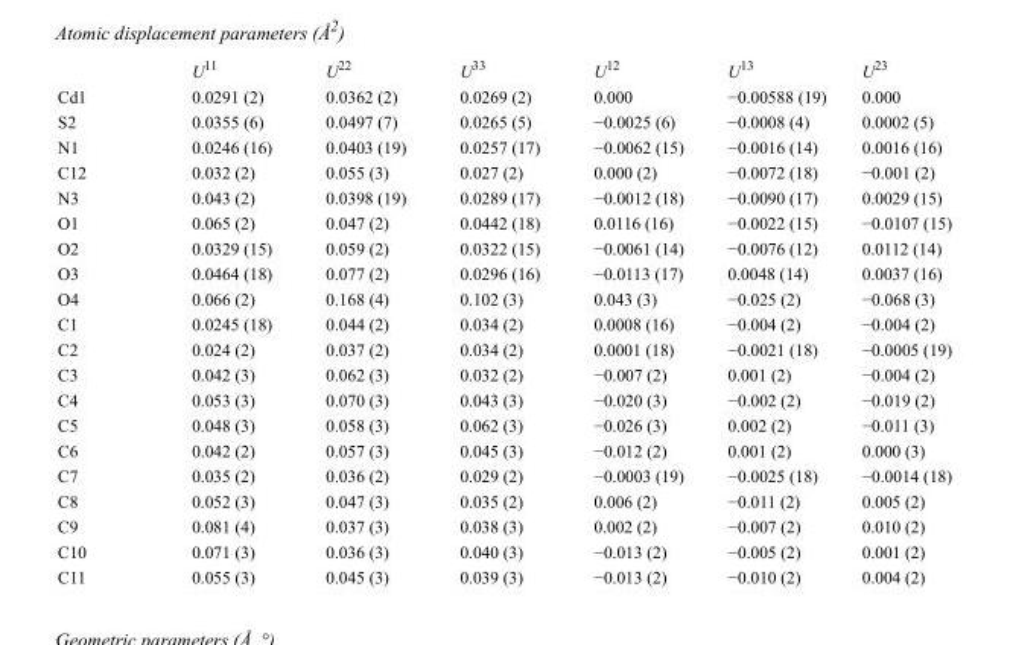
<table><thead><tr><td></td><td>U<sup>11</sup></td><td>U<sup>22</sup></td><td>U<sup>33</sup></td><td>U<sup>12</sup></td><td>U<sup>13</sup></td><td>U<sup>23</sup></td></tr></thead><tbody><tr><td>Cd1</td><td>0.0291 (2)</td><td>0.0362 (2)</td><td>0.0269 (2)</td><td>0.000</td><td>−0.00588 (19)</td><td>0.000</td></tr><tr><td>S2</td><td>0.0355 (6)</td><td>0.0497 (7)</td><td>0.0265 (5)</td><td>−0.0025 (6)</td><td>−0.0008 (4)</td><td>0.0002 (5)</td></tr><tr><td>N1</td><td>0.0246 (16)</td><td>0.0403 (19)</td><td>0.0257 (17)</td><td>−0.0062 (15)</td><td>−0.0016 (14)</td><td>0.0016 (16)</td></tr><tr><td>C12</td><td>0.032 (2)</td><td>0.055 (3)</td><td>0.027 (2)</td><td>0.000 (2)</td><td>−0.0072 (18)</td><td>−0.001 (2)</td></tr><tr><td>N3</td><td>0.043 (2)</td><td>0.0398 (19)</td><td>0.0289 (17)</td><td>−0.0012 (18)</td><td>−0.0090 (17)</td><td>0.0029 (15)</td></tr><tr><td>O1</td><td>0.065 (2)</td><td>0.047 (2)</td><td>0.0442 (18)</td><td>0.0116 (16)</td><td>−0.0022 (15)</td><td>−0.0107 (15)</td></tr><tr><td>O2</td><td>0.0329 (15)</td><td>0.059 (2)</td><td>0.0322 (15)</td><td>−0.0061 (14)</td><td>−0.0076 (12)</td><td>0.0112 (14)</td></tr><tr><td>O3</td><td>0.0464 (18)</td><td>0.077 (2)</td><td>0.0296 (16)</td><td>−0.0113 (17)</td><td>0.0048 (14)</td><td>0.0037 (16)</td></tr><tr><td>O4</td><td>0.066 (2)</td><td>0.168 (4)</td><td>0.102 (3)</td><td>0.043 (3)</td><td>−0.025 (2)</td><td>−0.068 (3)</td></tr><tr><td>C1</td><td>0.0245 (18)</td><td>0.044 (2)</td><td>0.034 (2)</td><td>0.0008 (16)</td><td>−0.004 (2)</td><td>−0.004 (2)</td></tr><tr><td>C2</td><td>0.024 (2)</td><td>0.037 (2)</td><td>0.034 (2)</td><td>0.0001 (18)</td><td>−0.0021 (18)</td><td>−0.0005 (19)</td></tr><tr><td>C3</td><td>0.042 (3)</td><td>0.062 (3)</td><td>0.032 (2)</td><td>−0.007 (2)</td><td>0.001 (2)</td><td>−0.004 (2)</td></tr><tr><td>C4</td><td>0.053 (3)</td><td>0.070 (3)</td><td>0.043 (3)</td><td>−0.020 (3)</td><td>−0.002 (2)</td><td>−0.019 (2)</td></tr><tr><td>C5</td><td>0.048 (3)</td><td>0.058 (3)</td><td>0.062 (3)</td><td>−0.026 (3)</td><td>0.002 (2)</td><td>−0.011 (3)</td></tr><tr><td>C6</td><td>0.042 (2)</td><td>0.057 (3)</td><td>0.045 (3)</td><td>−0.012 (2)</td><td>0.001 (2)</td><td>0.000 (3)</td></tr><tr><td>C7</td><td>0.035 (2)</td><td>0.036 (2)</td><td>0.029 (2)</td><td>−0.0003 (19)</td><td>−0.0025 (18)</td><td>−0.0014 (18)</td></tr><tr><td>C8</td><td>0.052 (3)</td><td>0.047 (3)</td><td>0.035 (2)</td><td>0.006 (2)</td><td>−0.011 (2)</td><td>0.005 (2)</td></tr><tr><td>C9</td><td>0.081 (4)</td><td>0.037 (3)</td><td>0.038 (3)</td><td>0.002 (2)</td><td>−0.007 (2)</td><td>0.010 (2)</td></tr><tr><td>C10</td><td>0.071 (3)</td><td>0.036 (3)</td><td>0.040 (3)</td><td>−0.013 (2)</td><td>−0.005 (2)</td><td>0.001 (2)</td></tr><tr><td>C11</td><td>0.055 (3)</td><td>0.045 (3)</td><td>0.039 (3)</td><td>−0.013 (2)</td><td>−0.010 (2)</td><td>0.004 (2)</td></tr></tbody></table>